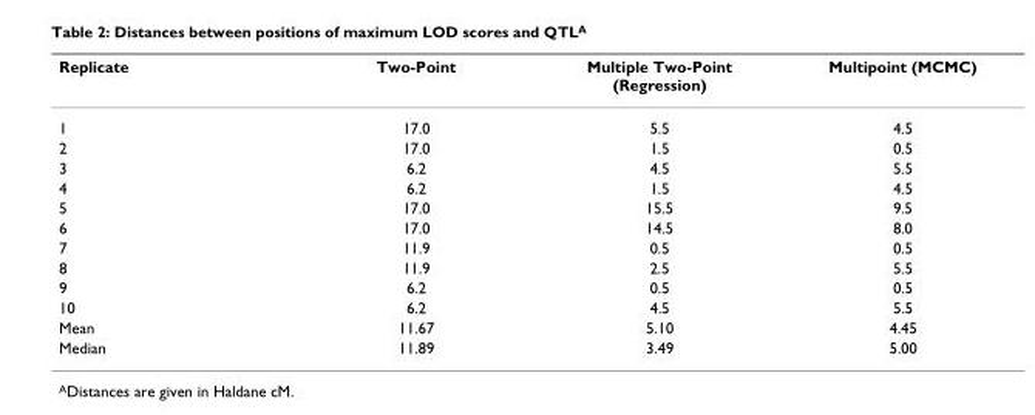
<table><thead><tr><td>Replicate</td><td>Two-Point</td><td>Multiple Two-Point (Regression)</td><td>Multipoint (MCMC)</td></tr></thead><tbody><tr><td>1</td><td>17.0</td><td>5.5</td><td>4.5</td></tr><tr><td>2</td><td>17.0</td><td>1.5</td><td>0.5</td></tr><tr><td>3</td><td>6.2</td><td>4.5</td><td>5.5</td></tr><tr><td>4</td><td>6.2</td><td>1.5</td><td>4.5</td></tr><tr><td>5</td><td>17.0</td><td>15.5</td><td>9.5</td></tr><tr><td>6</td><td>17.0</td><td>14.5</td><td>8.0</td></tr><tr><td>7</td><td>11.9</td><td>0.5</td><td>0.5</td></tr><tr><td>8</td><td>11.9</td><td>2.5</td><td>5.5</td></tr><tr><td>9</td><td>6.2</td><td>0.5</td><td>0.5</td></tr><tr><td>10</td><td>6.2</td><td>4.5</td><td>5.5</td></tr><tr><td>Mean</td><td>11.67</td><td>5.10</td><td>4.45</td></tr><tr><td>Median</td><td>11.89</td><td>3.49</td><td>5.00</td></tr></tbody></table>